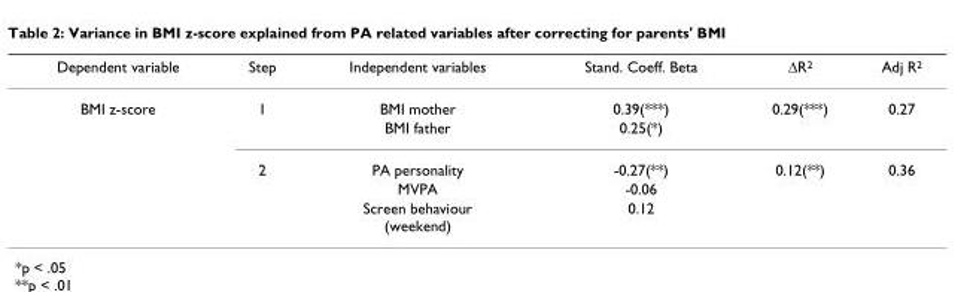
<table><thead><tr><td>Dependent variable</td><td>Step</td><td>Independent variables</td><td>Stand. Coeff. Beta</td><td>ΔR<sup>2</sup></td><td>Adj R<sup>2</sup></td></tr></thead><tbody><tr><td rowspan="5">BMI z-score</td><td>1</td><td>BMI mother</td><td>0.39(***)</td><td>0.29(***)</td><td>0.27</td></tr><tr><td></td><td>BMI father</td><td>0.25(*)</td><td></td><td></td></tr><tr><td>2</td><td>PA personality</td><td>-0.27(**)</td><td>0.12(**)</td><td>0.36</td></tr><tr><td></td><td>MVPA</td><td>-0.06</td><td></td><td></td></tr><tr><td></td><td>Screen behaviour (weekend)</td><td>0.12</td><td></td><td></td></tr></tbody></table>